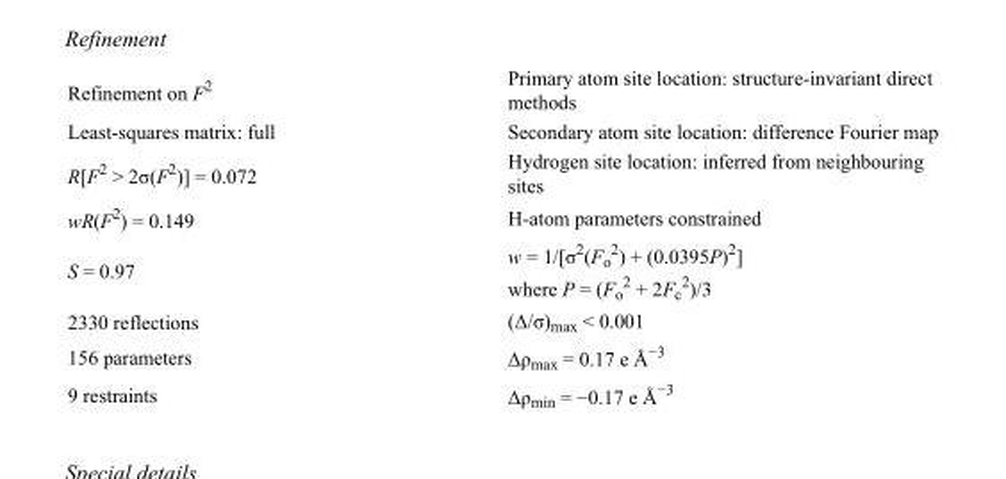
<table><tbody><tr><td>Refinement on F<sup>2</sup></td><td>Primary atom site location: structure-invariant direct methods</td></tr><tr><td>Least-squares matrix: full</td><td>Secondary atom site location: difference Fourier map</td></tr><tr><td>R[F<sup>2</sup> &gt; 2σ(F<sup>2</sup>)] = 0.072</td><td>Hydrogen site location: inferred from neighbouring sites</td></tr><tr><td>wR(F<sup>2</sup>) = 0.149</td><td>H-atom parameters constrained</td></tr><tr><td>S = 0.97</td><td>w = 1/[σ<sup>2</sup>(F<sub>o</sub> <sup>2</sup>) + (0.0395P)<sup>2</sup>] where P = (F<sub>o</sub> <sup>2</sup> + 2F<sub>c</sub> <sup>2</sup>)/3</td></tr><tr><td>2330 reflections</td><td>(Δ/σ)<sub>max</sub> &lt; 0.001</td></tr><tr><td>156 parameters</td><td>Δρ<sub>max</sub> = 0.17 e Å<sup>−3</sup></td></tr><tr><td>9 restraints</td><td>Δρ<sub>min</sub> = −0.17 e Å<sup>−3</sup></td></tr></tbody></table>